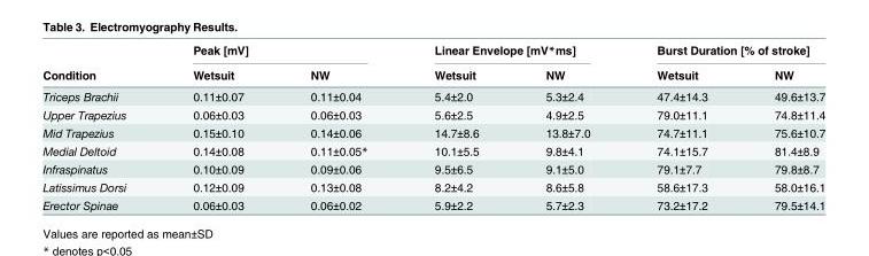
<table><thead><tr><td rowspan="2">Condition</td><td colspan="2">Peak [mV]</td><td colspan="2">Linear Envelope [mV*ms]</td><td colspan="2">Burst Duration [% of stroke]</td></tr><tr><td>Wetsuit</td><td>NW</td><td>Wetsuit</td><td>NW</td><td>Wetsuit</td><td>NW</td></tr></thead><tbody><tr><td>Triceps Brachii</td><td>0.11±0.07</td><td>0.11±0.04</td><td>5.4±2.0</td><td>5.3±2.4</td><td>47.4±14.3</td><td>49.6±13.7</td></tr><tr><td>Upper Trapezius</td><td>0.06±0.03</td><td>0.06±0.03</td><td>5.6±2.5</td><td>4.9±2.5</td><td>79.0±11.1</td><td>74.8±11.4</td></tr><tr><td>Mid Trapezius</td><td>0.15±0.10</td><td>0.14±0.06</td><td>14.7±8.6</td><td>13.8±7.0</td><td>74.7±11.1</td><td>75.6±10.7</td></tr><tr><td>Medial Deltoid</td><td>0.14±0.08</td><td>0.11±0.05*</td><td>10.1±5.5</td><td>9.8±4.1</td><td>74.1±15.7</td><td>81.4±8.9</td></tr><tr><td>Infraspinatus</td><td>0.10±0.09</td><td>0.09±0.06</td><td>9.5±6.5</td><td>9.1±5.0</td><td>79.1±7.7</td><td>79.8±8.7</td></tr><tr><td>Latissimus Dorsi</td><td>0.12±0.09</td><td>0.13±0.08</td><td>8.2±4.2</td><td>8.6±5.8</td><td>58.6±17.3</td><td>58.0±16.1</td></tr><tr><td>Erector Spinae</td><td>0.06±0.03</td><td>0.06±0.02</td><td>5.9±2.2</td><td>5.7±2.3</td><td>73.2±17.2</td><td>79.5±14.1</td></tr></tbody></table>